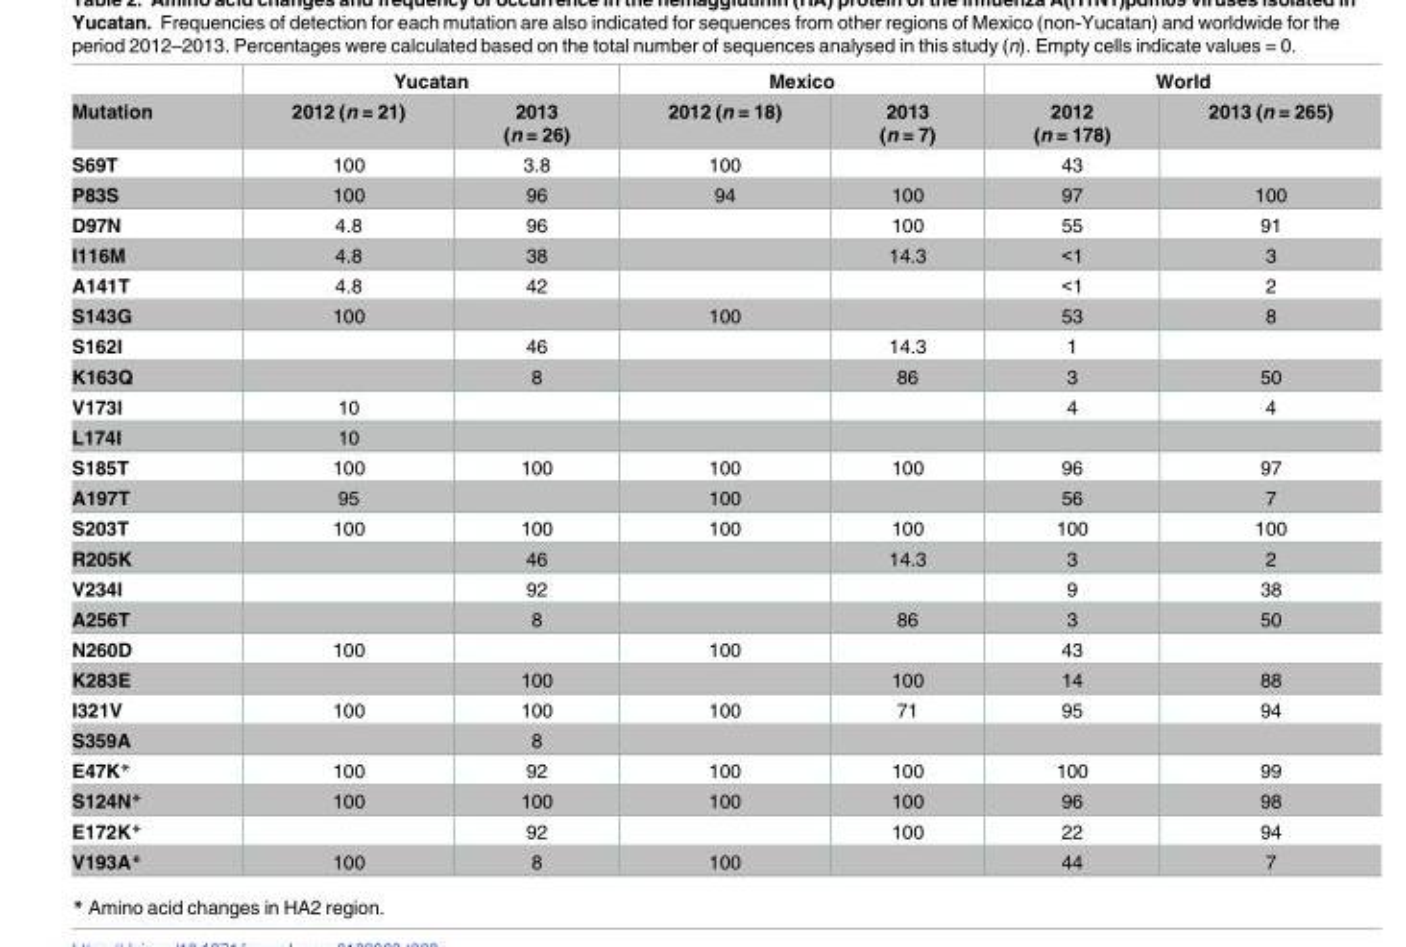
<table><thead><tr><td rowspan="2">Mutation</td><td colspan="2">Yucatan</td><td colspan="2">Mexico</td><td colspan="2">World</td></tr><tr><td>2012 (n = 21)</td><td>2013 (n = 26)</td><td>2012 (n = 18)</td><td>2013 (n = 7)</td><td>2012 (n = 178)</td><td>2013 (n = 265)</td></tr></thead><tbody><tr><td>S69T</td><td>100</td><td>3.8</td><td>100</td><td></td><td>43</td><td></td></tr><tr><td>P83S</td><td>100</td><td>96</td><td>94</td><td>100</td><td>97</td><td>100</td></tr><tr><td>D97N</td><td>4.8</td><td>96</td><td></td><td>100</td><td>55</td><td>91</td></tr><tr><td>I116M</td><td>4.8</td><td>38</td><td></td><td>14.3</td><td>&lt;1</td><td>3</td></tr><tr><td>A141T</td><td>4.8</td><td>42</td><td></td><td></td><td>&lt;1</td><td>2</td></tr><tr><td>S143G</td><td>100</td><td></td><td>100</td><td></td><td>53</td><td>8</td></tr><tr><td>S162I</td><td></td><td>46</td><td></td><td>14.3</td><td>1</td><td></td></tr><tr><td>K163Q</td><td></td><td>8</td><td></td><td>86</td><td>3</td><td>50</td></tr><tr><td>V173I</td><td>10</td><td></td><td></td><td></td><td>4</td><td>4</td></tr><tr><td>L174I</td><td>10</td><td></td><td></td><td></td><td></td><td></td></tr><tr><td>S185T</td><td>100</td><td>100</td><td>100</td><td>100</td><td>96</td><td>97</td></tr><tr><td>A197T</td><td>95</td><td></td><td>100</td><td></td><td>56</td><td>7</td></tr><tr><td>S203T</td><td>100</td><td>100</td><td>100</td><td>100</td><td>100</td><td>100</td></tr><tr><td>R205K</td><td></td><td>46</td><td></td><td>14.3</td><td>3</td><td>2</td></tr><tr><td>V234I</td><td></td><td>92</td><td></td><td></td><td>9</td><td>38</td></tr><tr><td>A256T</td><td></td><td>8</td><td></td><td>86</td><td>3</td><td>50</td></tr><tr><td>N260D</td><td>100</td><td></td><td>100</td><td></td><td>43</td><td></td></tr><tr><td>K283E</td><td></td><td>100</td><td></td><td>100</td><td>14</td><td>88</td></tr><tr><td>I321V</td><td>100</td><td>100</td><td>100</td><td>71</td><td>95</td><td>94</td></tr><tr><td>S359A</td><td></td><td>8</td><td></td><td></td><td></td><td></td></tr><tr><td>E47K*</td><td>100</td><td>92</td><td>100</td><td>100</td><td>100</td><td>99</td></tr><tr><td>S124N*</td><td>100</td><td>100</td><td>100</td><td>100</td><td>96</td><td>98</td></tr><tr><td>E172K*</td><td></td><td>92</td><td></td><td>100</td><td>22</td><td>94</td></tr><tr><td>V193A*</td><td>100</td><td>8</td><td>100</td><td></td><td>44</td><td>7</td></tr></tbody></table>